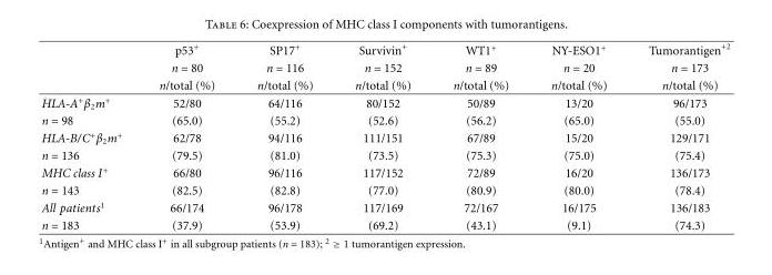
<table><thead><tr><td rowspan="3"></td><td rowspan="3">p53<sup>+</sup> n = 80 n/total (%)</td><td rowspan="3">SP17<sup>+</sup> n = 116 n/total (%)</td><td rowspan="3">Survivin<sup>+</sup> n = 152 n/total (%)</td><td rowspan="3">WT1<sup>+</sup> n = 89 n/total (%)</td><td rowspan="3">NY-ESO1<sup>+</sup> n = 20 n/total (%)</td><td rowspan="3">Tumorantigen<sup>+2</sup> n = 173 n/total (%)</td></tr><tr></tr><tr></tr></thead><tbody><tr><td>HLA-A<sup>+</sup>β<sub>2</sub>m<sup>+</sup></td><td>52/80</td><td>64/116</td><td>80/152</td><td>50/89</td><td>13/20</td><td>96/173</td></tr><tr><td>n = 98</td><td>(65.0)</td><td>(55.2)</td><td>(52.6)</td><td>(56.2)</td><td>(65.0)</td><td>(55.0)</td></tr><tr><td>HLA-B/C<sup>+</sup>β<sub>2</sub>m<sup>+</sup></td><td>62/78</td><td>94/116</td><td>111/151</td><td>67/89</td><td>15/20</td><td>129/171</td></tr><tr><td>n = 136</td><td>(79.5)</td><td>(81.0)</td><td>(73.5)</td><td>(75.3)</td><td>(75.0)</td><td>(75.4)</td></tr><tr><td>MHC class I<sup>+</sup></td><td>66/80</td><td>96/116</td><td>117/152</td><td>72/89</td><td>16/20</td><td>136/173</td></tr><tr><td>n = 143</td><td>(82.5)</td><td>(82.8)</td><td>(77.0)</td><td>(80.9)</td><td>(80.0)</td><td>(78.4)</td></tr><tr><td>All patients<sup>1</sup></td><td>66/174</td><td>96/178</td><td>117/169</td><td>72/167</td><td>16/175</td><td>136/183</td></tr><tr><td>n = 183</td><td>(37.9)</td><td>(53.9)</td><td>(69.2)</td><td>(43.1)</td><td>(9.1)</td><td>(74.3)</td></tr></tbody></table>